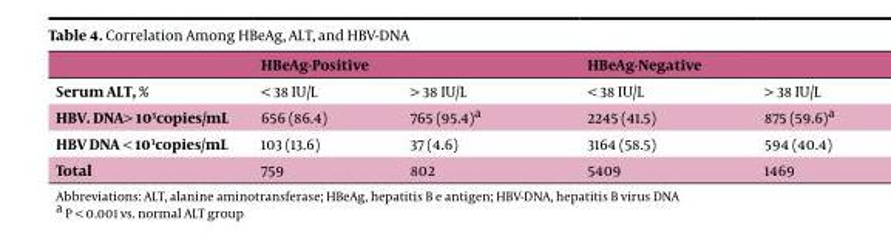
<table><thead><tr><td rowspan="2">Serum ALT, %</td><td colspan="2">HBeAg-Positive</td><td colspan="2">HBeAg-Negative</td></tr><tr><td>&lt; 38 IU/L</td><td>&gt; 38 IU/L</td><td>&lt; 38 IU/L</td><td>&gt; 38 IU/L</td></tr></thead><tbody><tr><td>HBV. DNA&gt; 10<sup>3</sup>copies/mL</td><td>656 (86.4)</td><td>765 (95.4)a</td><td>2245 (41.5)</td><td>875 (59.6)a</td></tr><tr><td>HBV DNA &lt; 10<sup>3</sup>copies/mL</td><td>103 (13.6)</td><td>37 (4.6)</td><td>3164 (58.5)</td><td>594 (40.4)</td></tr><tr><td>Total</td><td>759</td><td>802</td><td>5409</td><td>1469</td></tr></tbody></table>